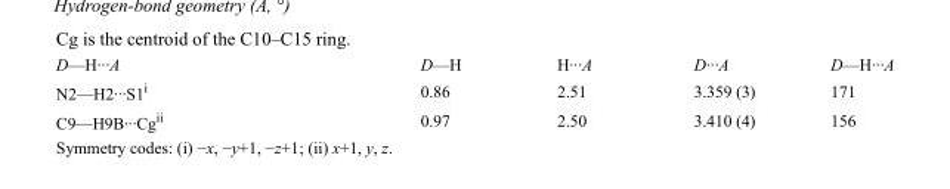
<table><tbody><tr><td>D—H···A</td><td>D—H</td><td>H···A</td><td>D···A</td><td>D—H···A</td></tr><tr><td>N2—H2···S1<sup>i</sup></td><td>0.86</td><td>2.51</td><td>3.359 (3)</td><td>171</td></tr><tr><td>C9—H9B···Cg<sup>ii</sup></td><td>0.97</td><td>2.50</td><td>3.410 (4)</td><td>156</td></tr></tbody></table>